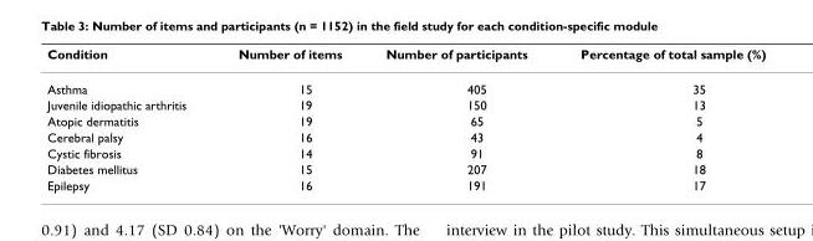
<table><thead><tr><td>Condition</td><td>Number of items</td><td>Number of participants</td><td>Percentage of total sample (%)</td></tr></thead><tbody><tr><td>Asthma</td><td>15</td><td>405</td><td>35</td></tr><tr><td>Juvenile idiopathic arthritis</td><td>19</td><td>150</td><td>13</td></tr><tr><td>Atopic dermatitis</td><td>19</td><td>65</td><td>5</td></tr><tr><td>Cerebral palsy</td><td>16</td><td>43</td><td>4</td></tr><tr><td>Cystic fibrosis</td><td>14</td><td>91</td><td>8</td></tr><tr><td>Diabetes mellitus</td><td>15</td><td>207</td><td>18</td></tr><tr><td>Epilepsy</td><td>16</td><td>191</td><td>17</td></tr></tbody></table>